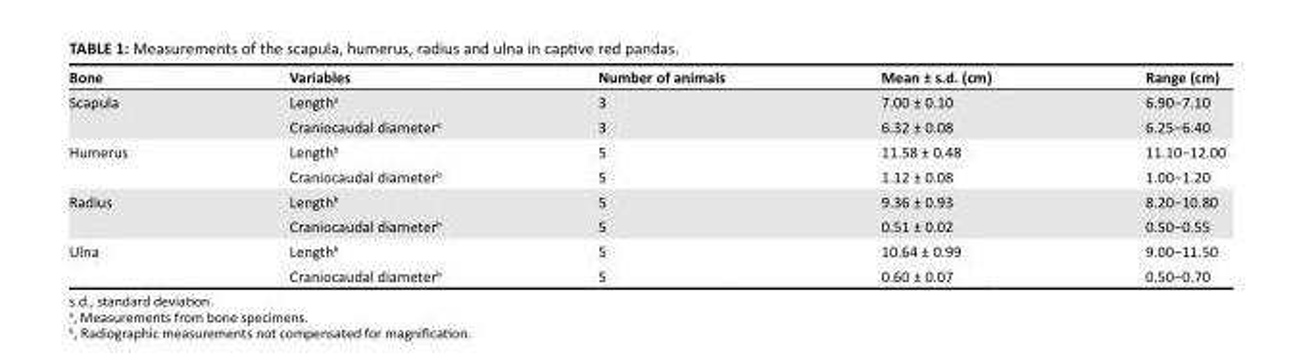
<table><thead><tr><td>Bone</td><td>Variables</td><td>Number of animals</td><td>Mean ± s.d. (cm)</td><td>Range (cm)</td></tr></thead><tbody><tr><td rowspan="2">Scapula</td><td>Length<sup>a</sup></td><td>3</td><td>7.00 ± 0.10</td><td>6.90−7.10</td></tr><tr><td>Craniocaudal diameter<sup>a</sup></td><td>3</td><td>6.32 ± 0.08</td><td>6.25−6.40</td></tr><tr><td rowspan="2">Humerus</td><td>Length<sup>b</sup></td><td>5</td><td>11.58 ± 0.48</td><td>11.10−12.00</td></tr><tr><td>Craniocaudal diameter<sup>b</sup></td><td>5</td><td>1.12 ± 0.08</td><td>1.00−1.20</td></tr><tr><td rowspan="2">Radius</td><td>Length<sup>b</sup></td><td>5</td><td>9.36 ± 0.93</td><td>8.20−10.80</td></tr><tr><td>Craniocaudal diameter<sup>b</sup></td><td>5</td><td>0.51 ± 0.02</td><td>0.50−0.55</td></tr><tr><td rowspan="2">Ulna</td><td>Length<sup>b</sup></td><td>5</td><td>10.64 ± 0.99</td><td>9.00−11.50</td></tr><tr><td>Craniocaudal diameter<sup>b</sup></td><td>5</td><td>0.60 ± 0.07</td><td>0.50−0.70</td></tr></tbody></table>